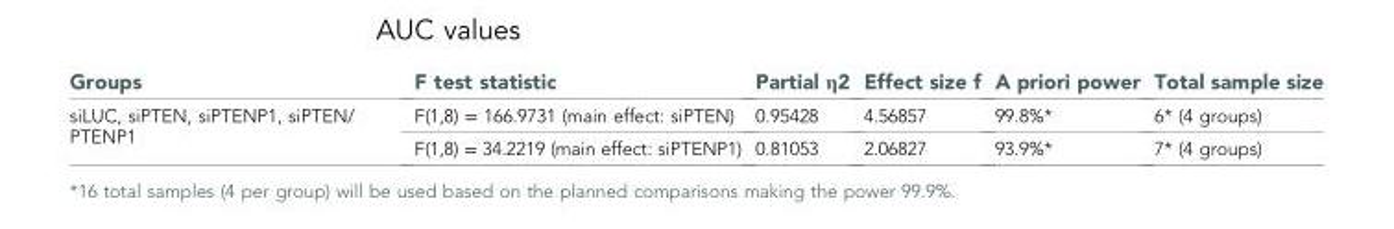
<table><thead><tr><td>Groups</td><td>F test statistic</td><td>Partial η2</td><td>Effect size f</td><td>A priori power</td><td>Total sample size</td></tr></thead><tbody><tr><td rowspan="2">siLUC, siPTEN, siPTENP1, siPTEN/ PTENP1</td><td>F(1,8) = 166.9731 (main effect: siPTEN)</td><td>0.95428</td><td>4.56857</td><td>99.8%*</td><td>6* (4 groups)</td></tr><tr><td>F(1,8) = 34.2219 (main effect: siPTENP1)</td><td>0.81053</td><td>2.06827</td><td>93.9%*</td><td>7* (4 groups)</td></tr></tbody></table>